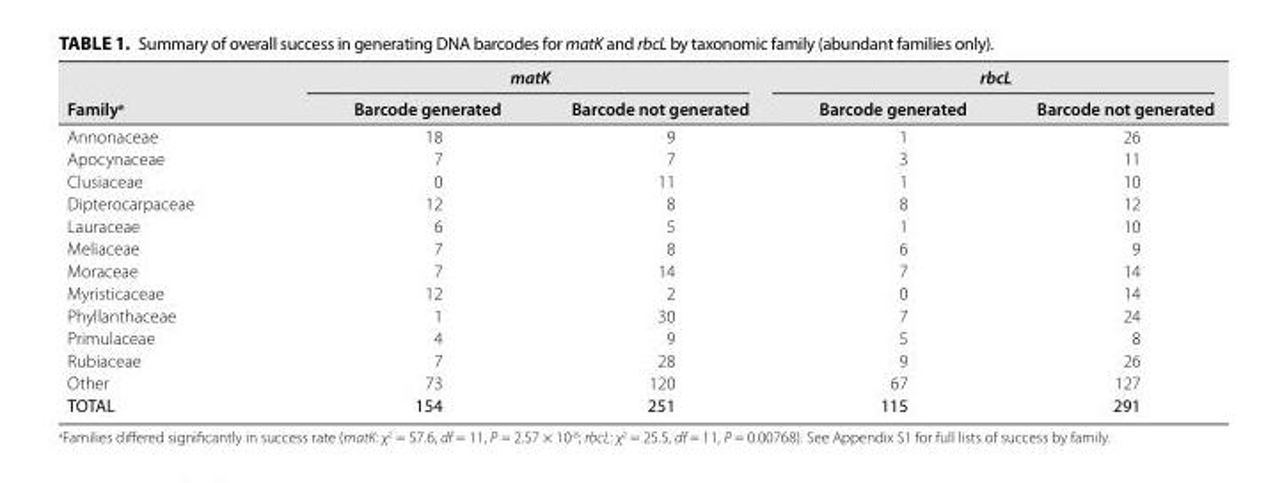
<table><thead><tr><td rowspan="2">Family<sup>a</sup></td><td colspan="2">matK</td><td colspan="2">rbcL</td></tr><tr><td>Barcode generated</td><td>Barcode not generated</td><td>Barcode generated</td><td>Barcode not generated</td></tr></thead><tbody><tr><td>Annonaceae</td><td>18</td><td>9</td><td>1</td><td>26</td></tr><tr><td>Apocynaceae</td><td>7</td><td>7</td><td>3</td><td>11</td></tr><tr><td>Clusiaceae</td><td>0</td><td>11</td><td>1</td><td>10</td></tr><tr><td>Dipterocarpaceae</td><td>12</td><td>8</td><td>8</td><td>12</td></tr><tr><td>Lauraceae</td><td>6</td><td>5</td><td>1</td><td>10</td></tr><tr><td>Meliaceae</td><td>7</td><td>8</td><td>6</td><td>9</td></tr><tr><td>Moraceae</td><td>7</td><td>14</td><td>7</td><td>14</td></tr><tr><td>Myristicaceae</td><td>12</td><td>2</td><td>0</td><td>14</td></tr><tr><td>Phyllanthaceae</td><td>1</td><td>30</td><td>7</td><td>24</td></tr><tr><td>Primulaceae</td><td>4</td><td>9</td><td>5</td><td>8</td></tr><tr><td>Rubiaceae</td><td>7</td><td>28</td><td>9</td><td>26</td></tr><tr><td>Other</td><td>73</td><td>120</td><td>67</td><td>127</td></tr><tr><td>TOTAL</td><td>154</td><td>251</td><td>115</td><td>291</td></tr></tbody></table>